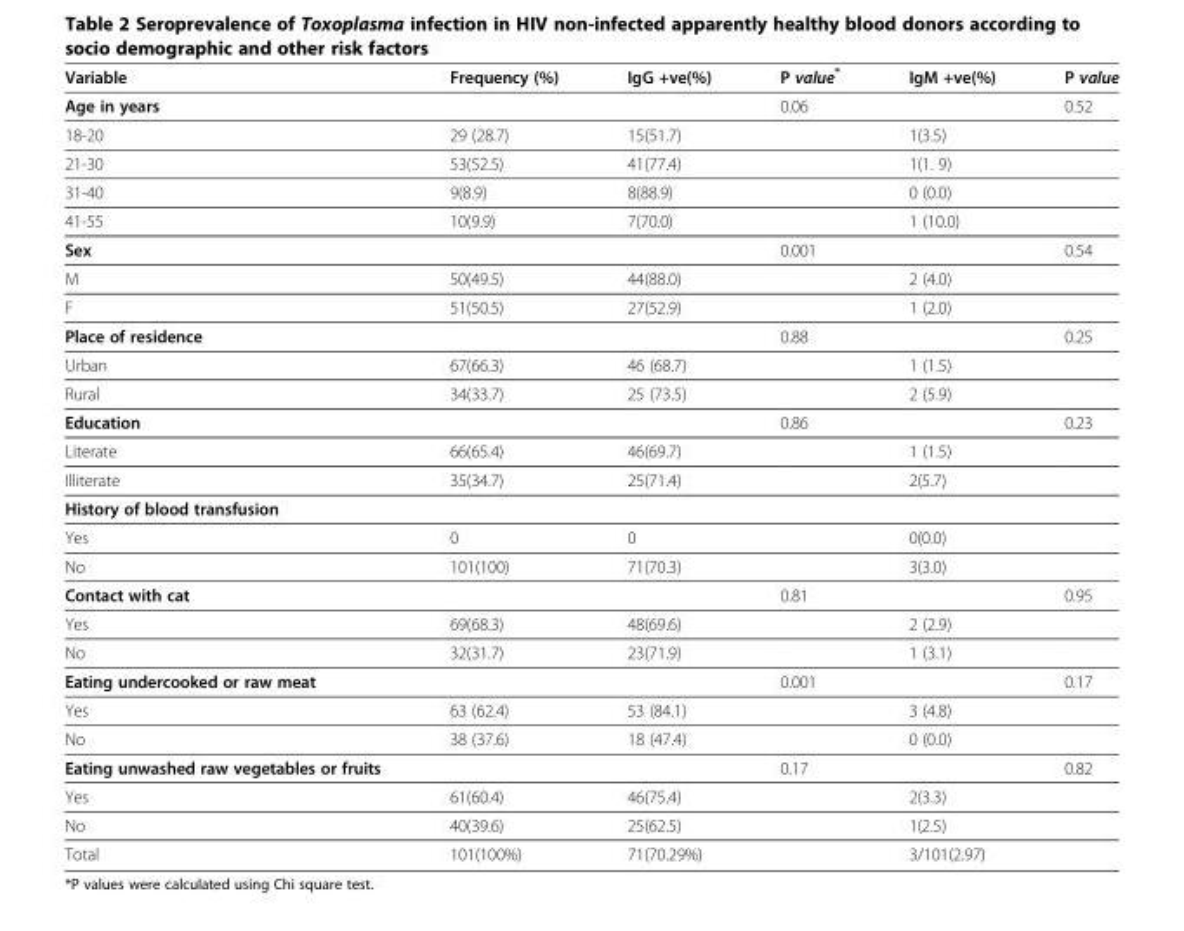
<table><thead><tr><td>Variable</td><td>Frequency (%)</td><td>IgG +ve(%)</td><td>P value*</td><td>IgM +ve(%)</td><td>P value</td></tr></thead><tbody><tr><td>Age in years</td><td></td><td></td><td>0.06</td><td></td><td>0.52</td></tr><tr><td>18-20</td><td>29 (28.7)</td><td>15(51.7)</td><td></td><td>1(3.5)</td><td></td></tr><tr><td>21-30</td><td>53(52.5)</td><td>41(77.4)</td><td></td><td>1(1. 9)</td><td></td></tr><tr><td>31-40</td><td>9(8.9)</td><td>8(88.9)</td><td></td><td>0 (0.0)</td><td></td></tr><tr><td>41-55</td><td>10(9.9)</td><td>7(70.0)</td><td></td><td>1 (10.0)</td><td></td></tr><tr><td>Sex</td><td></td><td></td><td>0.001</td><td></td><td>0.54</td></tr><tr><td>M</td><td>50(49.5)</td><td>44(88.0)</td><td></td><td>2 (4.0)</td><td></td></tr><tr><td>F</td><td>51(50.5)</td><td>27(52.9)</td><td></td><td>1 (2.0)</td><td></td></tr><tr><td>Place of residence</td><td></td><td></td><td>0.88</td><td></td><td>0.25</td></tr><tr><td>Urban</td><td>67(66.3)</td><td>46 (68.7)</td><td></td><td>1 (1.5)</td><td></td></tr><tr><td>Rural</td><td>34(33.7)</td><td>25 (73.5)</td><td></td><td>2 (5.9)</td><td></td></tr><tr><td>Education</td><td></td><td></td><td>0.86</td><td></td><td>0.23</td></tr><tr><td>Literate</td><td>66(65.4)</td><td>46(69.7)</td><td></td><td>1 (1.5)</td><td></td></tr><tr><td>Illiterate</td><td>35(34.7)</td><td>25(71.4)</td><td></td><td>2(5.7)</td><td></td></tr><tr><td colspan="6">History of blood transfusion</td></tr><tr><td>Yes</td><td>0</td><td>0</td><td></td><td>0(0.0)</td><td></td></tr><tr><td>No</td><td>101(100)</td><td>71(70.3)</td><td></td><td>3(3.0)</td><td></td></tr><tr><td>Contact with cat</td><td></td><td></td><td>0.81</td><td></td><td>0.95</td></tr><tr><td>Yes</td><td>69(68.3)</td><td>48(69.6)</td><td></td><td>2 (2.9)</td><td></td></tr><tr><td>No</td><td>32(31.7)</td><td>23(71.9)</td><td></td><td>1 (3.1)</td><td></td></tr><tr><td>Eating undercooked or raw meat</td><td></td><td></td><td>0.001</td><td></td><td>0.17</td></tr><tr><td>Yes</td><td>63 (62.4)</td><td>53 (84.1)</td><td></td><td>3 (4.8)</td><td></td></tr><tr><td>No</td><td>38 (37.6)</td><td>18 (47.4)</td><td></td><td>0 (0.0)</td><td></td></tr><tr><td>Eating unwashed raw vegetables or fruits</td><td></td><td></td><td>0.17</td><td></td><td>0.82</td></tr><tr><td>Yes</td><td>61(60.4)</td><td>46(75.4)</td><td></td><td>2(3.3)</td><td></td></tr><tr><td>No</td><td>40(39.6)</td><td>25(62.5)</td><td></td><td>1(2.5)</td><td></td></tr><tr><td>Total</td><td>101(100%)</td><td>71(70.29%)</td><td></td><td>3/101(2.97)</td><td></td></tr></tbody></table>